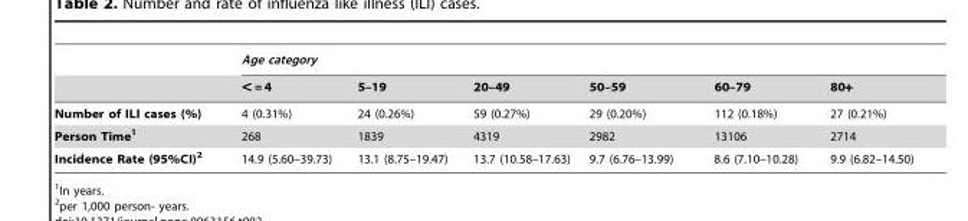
<table><thead><tr><td rowspan="2"></td><td colspan="6">Age category</td></tr><tr><td>&lt; = 4</td><td>5–19</td><td>20–49</td><td>50–59</td><td>60–79</td><td>80+</td></tr></thead><tbody><tr><td>Number of ILI cases (%)</td><td>4 (0.31%)</td><td>24 (0.26%)</td><td>59 (0.27%)</td><td>29 (0.20%)</td><td>112 (0.18%)</td><td>27 (0.21%)</td></tr><tr><td>Person Time1</td><td>268</td><td>1839</td><td>4319</td><td>2982</td><td>13106</td><td>2714</td></tr><tr><td>Incidence Rate (95%CI)2</td><td>14.9 (5.60–39.73)</td><td>13.1 (8.75–19.47)</td><td>13.7 (10.58–17.63)</td><td>9.7 (6.76–13.99)</td><td>8.6 (7.10–10.28)</td><td>9.9 (6.82–14.50)</td></tr></tbody></table>